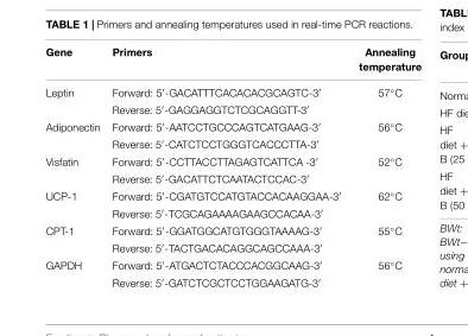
<table><thead><tr><td>Gene</td><td>Primers</td><td>Annealing temperature</td></tr></thead><tbody><tr><td rowspan="2">Leptin</td><td>Forward: 5′-GACATTTCACACACGCAGTC-3′</td><td>57◦C</td></tr><tr><td>Reverse: 5′-GAGGAGGTCTCGCAGGTT-3′</td><td></td></tr><tr><td rowspan="2">Adiponectin</td><td>Forward: 5′-AATCCTGCCCAGTCATGAAG-3′</td><td>56◦C</td></tr><tr><td>Reverse: 5′-CATCTCCTGGGTCACCCTTA-3′</td><td></td></tr><tr><td rowspan="2">Visfatin</td><td>Forward: 5′-CCTTACCTTAGAGTCATTCA -3′</td><td>52◦C</td></tr><tr><td>Reverse: 5′-GACATTCTCAATACTCCAC-3′</td><td></td></tr><tr><td rowspan="2">UCP-1</td><td>Forward: 5′-CGATGTCCATGTACCACAAGGAA-3′</td><td>62◦C</td></tr><tr><td>Reverse: 5′-TCGCAGAAAAGAAGCCACAA-3′</td><td></td></tr><tr><td rowspan="2">CPT-1</td><td>Forward: 5′-GGATGGCATGTGGGTAAAAG-3′</td><td>55◦C</td></tr><tr><td>Reverse: 5′-TACTGACACAGGCAGCCAAA-3′</td><td></td></tr><tr><td rowspan="2">GAPDH</td><td>Forward: 5′-ATGACTCTACCCACGGCAAG-3′</td><td>56◦C</td></tr><tr><td>Reverse: 5′-GATCTCGCTCCTGGAAGATG-3′</td><td></td></tr></tbody></table>